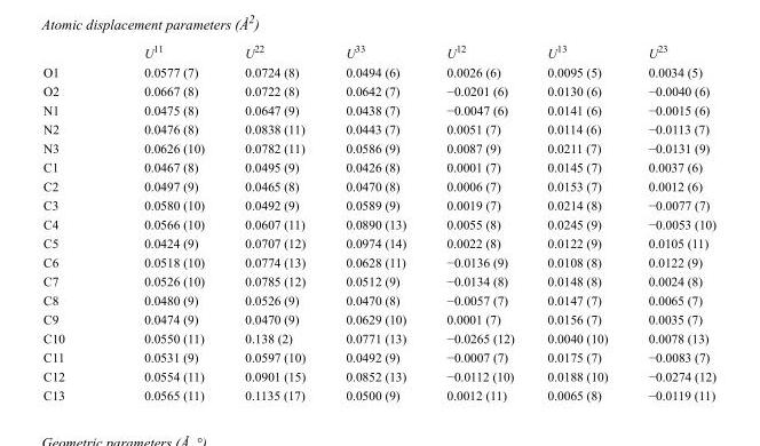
<table><thead><tr><td></td><td>U<sup>11</sup></td><td>U<sup>22</sup></td><td>U<sup>33</sup></td><td>U<sup>12</sup></td><td>U<sup>13</sup></td><td>U<sup>23</sup></td></tr></thead><tbody><tr><td>O1</td><td>0.0577 (7)</td><td>0.0724 (8)</td><td>0.0494 (6)</td><td>0.0026 (6)</td><td>0.0095 (5)</td><td>0.0034 (5)</td></tr><tr><td>O2</td><td>0.0667 (8)</td><td>0.0722 (8)</td><td>0.0642 (7)</td><td>−0.0201 (6)</td><td>0.0130 (6)</td><td>−0.0040 (6)</td></tr><tr><td>N1</td><td>0.0475 (8)</td><td>0.0647 (9)</td><td>0.0438 (7)</td><td>−0.0047 (6)</td><td>0.0141 (6)</td><td>−0.0015 (6)</td></tr><tr><td>N2</td><td>0.0476 (8)</td><td>0.0838 (11)</td><td>0.0443 (7)</td><td>0.0051 (7)</td><td>0.0114 (6)</td><td>−0.0113 (7)</td></tr><tr><td>N3</td><td>0.0626 (10)</td><td>0.0782 (11)</td><td>0.0586 (9)</td><td>0.0087 (9)</td><td>0.0211 (7)</td><td>−0.0131 (9)</td></tr><tr><td>C1</td><td>0.0467 (8)</td><td>0.0495 (9)</td><td>0.0426 (8)</td><td>0.0001 (7)</td><td>0.0145 (7)</td><td>0.0037 (6)</td></tr><tr><td>C2</td><td>0.0497 (9)</td><td>0.0465 (8)</td><td>0.0470 (8)</td><td>0.0006 (7)</td><td>0.0153 (7)</td><td>0.0012 (6)</td></tr><tr><td>C3</td><td>0.0580 (10)</td><td>0.0492 (9)</td><td>0.0589 (9)</td><td>0.0019 (7)</td><td>0.0214 (8)</td><td>−0.0077 (7)</td></tr><tr><td>C4</td><td>0.0566 (10)</td><td>0.0607 (11)</td><td>0.0890 (13)</td><td>0.0055 (8)</td><td>0.0245 (9)</td><td>−0.0053 (10)</td></tr><tr><td>C5</td><td>0.0424 (9)</td><td>0.0707 (12)</td><td>0.0974 (14)</td><td>0.0022 (8)</td><td>0.0122 (9)</td><td>0.0105 (11)</td></tr><tr><td>C6</td><td>0.0518 (10)</td><td>0.0774 (13)</td><td>0.0628 (11)</td><td>−0.0136 (9)</td><td>0.0108 (8)</td><td>0.0122 (9)</td></tr><tr><td>C7</td><td>0.0526 (10)</td><td>0.0785 (12)</td><td>0.0512 (9)</td><td>−0.0134 (8)</td><td>0.0148 (8)</td><td>0.0024 (8)</td></tr><tr><td>C8</td><td>0.0480 (9)</td><td>0.0526 (9)</td><td>0.0470 (8)</td><td>−0.0057 (7)</td><td>0.0147 (7)</td><td>0.0065 (7)</td></tr><tr><td>C9</td><td>0.0474 (9)</td><td>0.0470 (9)</td><td>0.0629 (10)</td><td>0.0001 (7)</td><td>0.0156 (7)</td><td>0.0035 (7)</td></tr><tr><td>C10</td><td>0.0550 (11)</td><td>0.138 (2)</td><td>0.0771 (13)</td><td>−0.0265 (12)</td><td>0.0040 (10)</td><td>0.0078 (13)</td></tr><tr><td>C11</td><td>0.0531 (9)</td><td>0.0597 (10)</td><td>0.0492 (9)</td><td>−0.0007 (7)</td><td>0.0175 (7)</td><td>−0.0083 (7)</td></tr><tr><td>C12</td><td>0.0554 (11)</td><td>0.0901 (15)</td><td>0.0852 (13)</td><td>−0.0112 (10)</td><td>0.0188 (10)</td><td>−0.0274 (12)</td></tr><tr><td>C13</td><td>0.0565 (11)</td><td>0.1135 (17)</td><td>0.0500 (9)</td><td>0.0012 (11)</td><td>0.0065 (8)</td><td>−0.0119 (11)</td></tr></tbody></table>